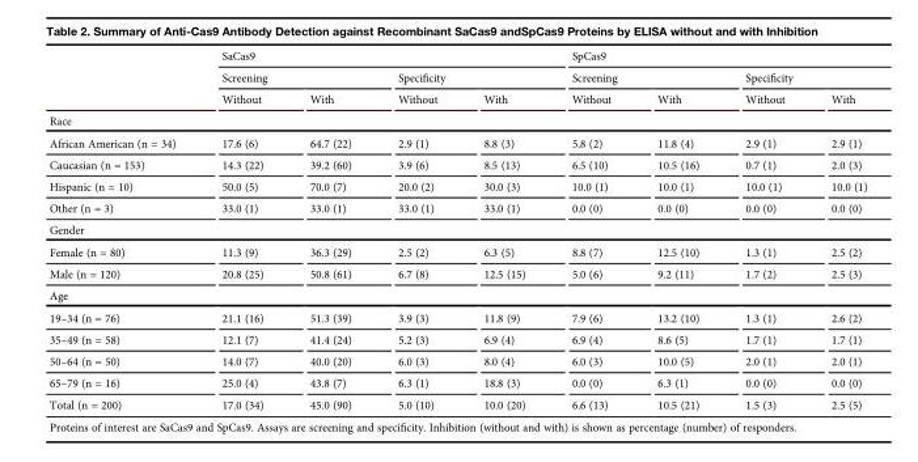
<table><thead><tr><td rowspan="3"></td><td colspan="4">SaCas9</td><td colspan="4">SpCas9</td></tr><tr><td colspan="2">Screening</td><td colspan="2">Specificity</td><td colspan="2">Screening</td><td colspan="2">Specificity</td></tr><tr><td>Without</td><td>With</td><td>Without</td><td>With</td><td>Without</td><td>With</td><td>Without</td><td>With</td></tr></thead><tbody><tr><td colspan="9">Race</td></tr><tr><td>African American (n = 34)</td><td>17.6 (6)</td><td>64.7 (22)</td><td>2.9 (1)</td><td>8.8 (3)</td><td>5.8 (2)</td><td>11.8 (4)</td><td>2.9 (1)</td><td>2.9 (1)</td></tr><tr><td>Caucasian (n = 153)</td><td>14.3 (22)</td><td>39.2 (60)</td><td>3.9 (6)</td><td>8.5 (13)</td><td>6.5 (10)</td><td>10.5 (16)</td><td>0.7 (1)</td><td>2.0 (3)</td></tr><tr><td>Hispanic (n = 10)</td><td>50.0 (5)</td><td>70.0 (7)</td><td>20.0 (2)</td><td>30.0 (3)</td><td>10.0 (1)</td><td>10.0 (1)</td><td>10.0 (1)</td><td>10.0 (1)</td></tr><tr><td>Other (n = 3)</td><td>33.0 (1)</td><td>33.0 (1)</td><td>33.0 (1)</td><td>33.0 (1)</td><td>0.0 (0)</td><td>0.0 (0)</td><td>0.0 (0)</td><td>0.0 (0)</td></tr><tr><td colspan="9">Gender</td></tr><tr><td>Female (n = 80)</td><td>11.3 (9)</td><td>36.3 (29)</td><td>2.5 (2)</td><td>6.3 (5)</td><td>8.8 (7)</td><td>12.5 (10)</td><td>1.3 (1)</td><td>2.5 (2)</td></tr><tr><td>Male (n = 120)</td><td>20.8 (25)</td><td>50.8 (61)</td><td>6.7 (8)</td><td>12.5 (15)</td><td>5.0 (6)</td><td>9.2 (11)</td><td>1.7 (2)</td><td>2.5 (3)</td></tr><tr><td colspan="9">Age</td></tr><tr><td>19–34 (n = 76)</td><td>21.1 (16)</td><td>51.3 (39)</td><td>3.9 (3)</td><td>11.8 (9)</td><td>7.9 (6)</td><td>13.2 (10)</td><td>1.3 (1)</td><td>2.6 (2)</td></tr><tr><td>35–49 (n = 58)</td><td>12.1 (7)</td><td>41.4 (24)</td><td>5.2 (3)</td><td>6.9 (4)</td><td>6.9 (4)</td><td>8.6 (5)</td><td>1.7 (1)</td><td>1.7 (1)</td></tr><tr><td>50–64 (n = 50)</td><td>14.0 (7)</td><td>40.0 (20)</td><td>6.0 (3)</td><td>8.0 (4)</td><td>6.0 (3)</td><td>10.0 (5)</td><td>2.0 (1)</td><td>2.0 (1)</td></tr><tr><td>65–79 (n = 16)</td><td>25.0 (4)</td><td>43.8 (7)</td><td>6.3 (1)</td><td>18.8 (3)</td><td>0.0 (0)</td><td>6.3 (1)</td><td>0.0 (0)</td><td>0.0 (0)</td></tr><tr><td>Total (n = 200)</td><td>17.0 (34)</td><td>45.0 (90)</td><td>5.0 (10)</td><td>10.0 (20)</td><td>6.6 (13)</td><td>10.5 (21)</td><td>1.5 (3)</td><td>2.5 (5)</td></tr></tbody></table>